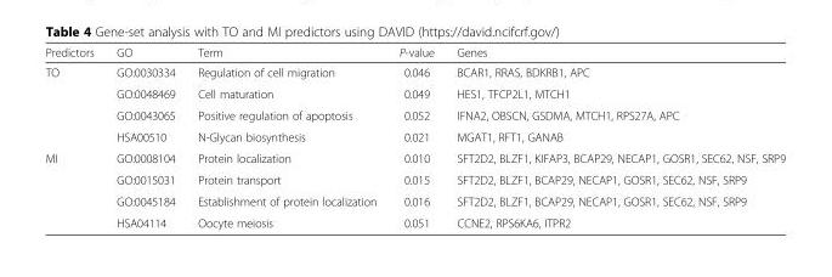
<table><thead><tr><td>Predictors</td><td>GO</td><td>Term</td><td>P-value</td><td>Genes</td></tr></thead><tbody><tr><td rowspan="4">TO</td><td>GO:0030334</td><td>Regulation of cell migration</td><td>0.046</td><td>BCAR1, RRAS, BDKRB1, APC</td></tr><tr><td>GO:0048469</td><td>Cell maturation</td><td>0.049</td><td>HES1, TFCP2L1, MTCH1</td></tr><tr><td>GO:0043065</td><td>Positive regulation of apoptosis</td><td>0.052</td><td>IFNA2, OBSCN, GSDMA, MTCH1, RPS27A, APC</td></tr><tr><td>HSA00510</td><td>N-Glycan biosynthesis</td><td>0.021</td><td>MGAT1, RFT1, GANAB</td></tr><tr><td rowspan="4">MI</td><td>GO:0008104</td><td>Protein localization</td><td>0.010</td><td>SFT2D2, BLZF1, KIFAP3, BCAP29, NECAP1, GOSR1, SEC62, NSF, SRP9</td></tr><tr><td>GO:0015031</td><td>Protein transport</td><td>0.015</td><td>SFT2D2, BLZF1, BCAP29, NECAP1, GOSR1, SEC62, NSF, SRP9</td></tr><tr><td>GO:0045184</td><td>Establishment of protein localization</td><td>0.016</td><td>SFT2D2, BLZF1, BCAP29, NECAP1, GOSR1, SEC62, NSF, SRP9</td></tr><tr><td>HSA04114</td><td>Oocyte meiosis</td><td>0.051</td><td>CCNE2, RPS6KA6, ITPR2</td></tr></tbody></table>